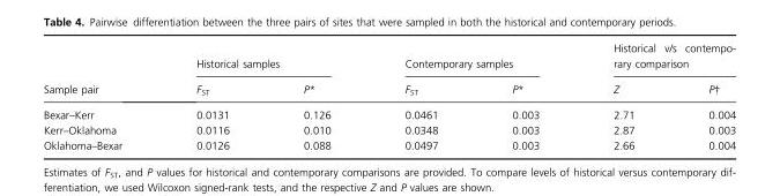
<table><thead><tr><td rowspan="2">Sample pair</td><td colspan="2">Historical samples</td><td colspan="2">Contemporary samples</td><td colspan="2">Historical v/s contempo- rary comparison</td></tr><tr><td>F<sub>ST</sub></td><td>P*</td><td>F<sub>ST</sub></td><td>P*</td><td>Z</td><td>P†</td></tr></thead><tbody><tr><td>Bexar–Kerr</td><td>0.0131</td><td>0.126</td><td>0.0461</td><td>0.003</td><td>2.71</td><td>0.004</td></tr><tr><td>Kerr–Oklahoma</td><td>0.0116</td><td>0.010</td><td>0.0348</td><td>0.003</td><td>2.87</td><td>0.003</td></tr><tr><td>Oklahoma–Bexar</td><td>0.0126</td><td>0.088</td><td>0.0497</td><td>0.003</td><td>2.66</td><td>0.004</td></tr></tbody></table>